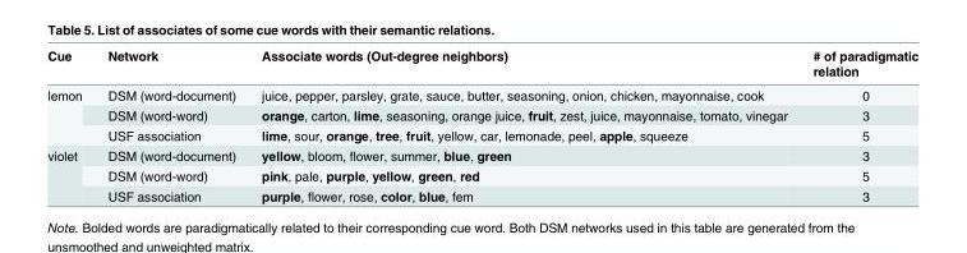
<table><thead><tr><td>Cue</td><td>Network</td><td>Associate words (Out-degree neighbors)</td><td># of paradigmatic relation</td></tr></thead><tbody><tr><td rowspan="3">lemon</td><td>DSM (word-document)</td><td>juice, pepper, parsley, grate, sauce, butter, seasoning, onion, chicken, mayonnaise, cook</td><td>0</td></tr><tr><td>DSM (word-word)</td><td>orange, carton, lime, seasoning, orange juice, fruit, zest, juice, mayonnaise, tomato, vinegar</td><td>3</td></tr><tr><td>USF association</td><td>lime, sour, orange, tree, fruit, yellow, car, lemonade, peel, apple, squeeze</td><td>5</td></tr><tr><td rowspan="3">violet</td><td>DSM (word-document)</td><td>yellow, bloom, flower, summer, blue, green</td><td>3</td></tr><tr><td>DSM (word-word)</td><td>pink, pale, purple, yellow, green, red</td><td>5</td></tr><tr><td>USF association</td><td>purple, flower, rose, color, blue, fem</td><td>3</td></tr></tbody></table>